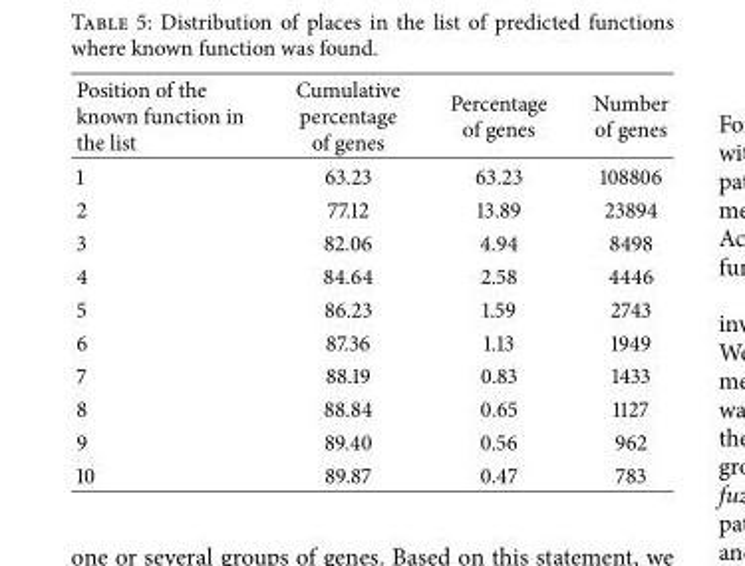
<table><thead><tr><td>Position of the known function in the list</td><td>Cumulative percentage of genes</td><td>Percentage of genes</td><td>Number of genes</td></tr></thead><tbody><tr><td>1</td><td>63.23</td><td>63.23</td><td>108806</td></tr><tr><td>2</td><td>77.12</td><td>13.89</td><td>23894</td></tr><tr><td>3</td><td>82.06</td><td>4.94</td><td>8498</td></tr><tr><td>4</td><td>84.64</td><td>2.58</td><td>4446</td></tr><tr><td>5</td><td>86.23</td><td>1.59</td><td>2743</td></tr><tr><td>6</td><td>87.36</td><td>1.13</td><td>1949</td></tr><tr><td>7</td><td>88.19</td><td>0.83</td><td>1433</td></tr><tr><td>8</td><td>88.84</td><td>0.65</td><td>1127</td></tr><tr><td>9</td><td>89.40</td><td>0.56</td><td>962</td></tr><tr><td>10</td><td>89.87</td><td>0.47</td><td>783</td></tr></tbody></table>